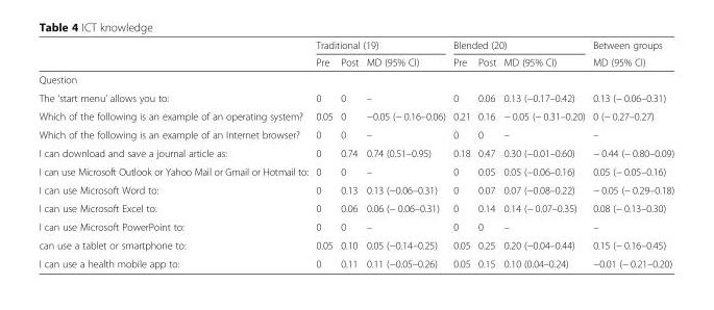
<table><thead><tr><td rowspan="2"></td><td colspan="3">Traditional (19)</td><td colspan="3">Blended (20)</td><td rowspan="2">Between groups MD (95% CI)</td></tr><tr><td>Pre</td><td>Post</td><td>MD (95% CI)</td><td>Pre</td><td>Post</td><td>MD (95% CI)</td></tr></thead><tbody><tr><td colspan="8">Question</td></tr><tr><td>The ‘start menu’ allows you to:</td><td>0</td><td>0</td><td>–</td><td>0</td><td>0.06</td><td>0.13 (−0.17–0.42)</td><td>0.13 (− 0.06–0.31)</td></tr><tr><td>Which of the following is an example of an operating system?</td><td>0.05</td><td>0</td><td>−0.05 (− 0.16–0.06)</td><td>0.21</td><td>0.16</td><td>− 0.05 (− 0.31–0.20)</td><td>0 (− 0.27–0.27)</td></tr><tr><td>Which of the following is an example of an Internet browser?</td><td>0</td><td>0</td><td>–</td><td>0</td><td>0</td><td>–</td><td>–</td></tr><tr><td>I can download and save a journal article as:</td><td>0</td><td>0.74</td><td>0.74 (0.51–0.95)</td><td>0.18</td><td>0.47</td><td>0.30 (−0.01–0.60)</td><td>− 0.44 (− 0.80–0.09)</td></tr><tr><td>I can use Microsoft Outlook or Yahoo Mail or Gmail or Hotmail to:</td><td>0</td><td>0</td><td>–</td><td>0</td><td>0.05</td><td>0.05 (−0.06–0.16)</td><td>0.05 (− 0.05–0.16)</td></tr><tr><td>I can use Microsoft Word to:</td><td>0</td><td>0.13</td><td>0.13 (−0.06–0.31)</td><td>0</td><td>0.07</td><td>0.07 (−0.08–0.22)</td><td>− 0.05 (− 0.29–0.18)</td></tr><tr><td>I can use Microsoft Excel to:</td><td>0</td><td>0.06</td><td>0.06 (− 0.06–0.31)</td><td>0</td><td>0.14</td><td>0.14 (− 0.07–0.35)</td><td>0.08 (− 0.13–0.30)</td></tr><tr><td>I can use Microsoft PowerPoint to:</td><td>0</td><td>0</td><td>–</td><td>0</td><td>0</td><td>–</td><td>–</td></tr><tr><td>can use a tablet or smartphone to:</td><td>0.05</td><td>0.10</td><td>0.05 (−0.14–0.25)</td><td>0.05</td><td>0.25</td><td>0.20 (−0.04–0.44)</td><td>0.15 (− 0.16–0.45)</td></tr><tr><td>I can use a health mobile app to:</td><td>0</td><td>0.11</td><td>0.11 (−0.05–0.26)</td><td>0.05</td><td>0.15</td><td>0.10 (0.04–0.24)</td><td>−0.01 (− 0.21–0.20)</td></tr></tbody></table>